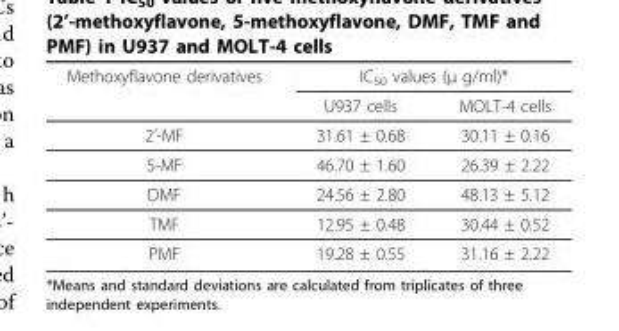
<table><thead><tr><td rowspan="2">Methoxyflavone derivatives</td><td colspan="2">IC<sub>50</sub> values (μ g/ml)*</td></tr><tr><td>U937 cells</td><td>MOLT-4 cells</td></tr></thead><tbody><tr><td>2’-MF</td><td>31.61 ± 0.68</td><td>30.11 ± 0.16</td></tr><tr><td>5-MF</td><td>46.70 ± 1.60</td><td>26.39 ± 2.22</td></tr><tr><td>DMF</td><td>24.56 ± 2.80</td><td>48.13 ± 5.12</td></tr><tr><td>TMF</td><td>12.95 ± 0.48</td><td>30.44 ± 0.52</td></tr><tr><td>PMF</td><td>19.28 ± 0.55</td><td>31.16 ± 2.22</td></tr></tbody></table>